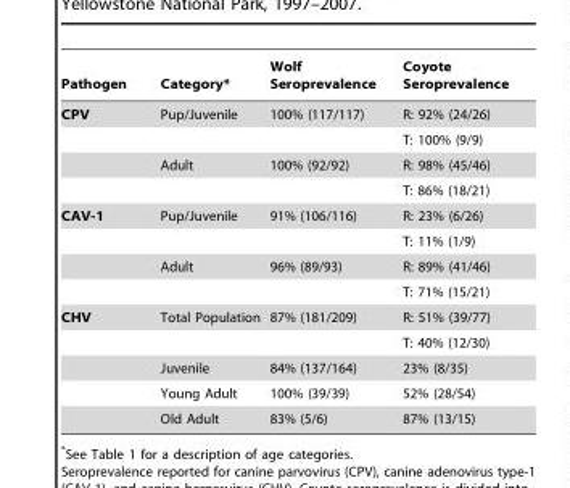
<table><thead><tr><td>Pathogen</td><td>Category*</td><td>Wolf Seroprevalence</td><td>Coyote Seroprevalence</td></tr></thead><tbody><tr><td rowspan="4">CPV</td><td>Pup/Juvenile</td><td>100% (117/117)</td><td>R: 92% (24/26)</td></tr><tr><td></td><td></td><td>T: 100% (9/9)</td></tr><tr><td>Adult</td><td>100% (92/92)</td><td>R: 98% (45/46)</td></tr><tr><td></td><td></td><td>T: 86% (18/21)</td></tr><tr><td rowspan="4">CAV-1</td><td>Pup/Juvenile</td><td>91% (106/116)</td><td>R: 23% (6/26)</td></tr><tr><td></td><td></td><td>T: 11% (1/9)</td></tr><tr><td>Adult</td><td>96% (89/93)</td><td>R: 89% (41/46)</td></tr><tr><td></td><td></td><td>T: 71% (15/21)</td></tr><tr><td rowspan="5">CHV</td><td>Total Population</td><td>87% (181/209)</td><td>R: 51% (39/77)</td></tr><tr><td></td><td></td><td>T: 40% (12/30)</td></tr><tr><td>Juvenile</td><td>84% (137/164)</td><td>23% (8/35)</td></tr><tr><td>Young Adult</td><td>100% (39/39)</td><td>52% (28/54)</td></tr><tr><td>Old Adult</td><td>83% (5/6)</td><td>87% (13/15)</td></tr></tbody></table>